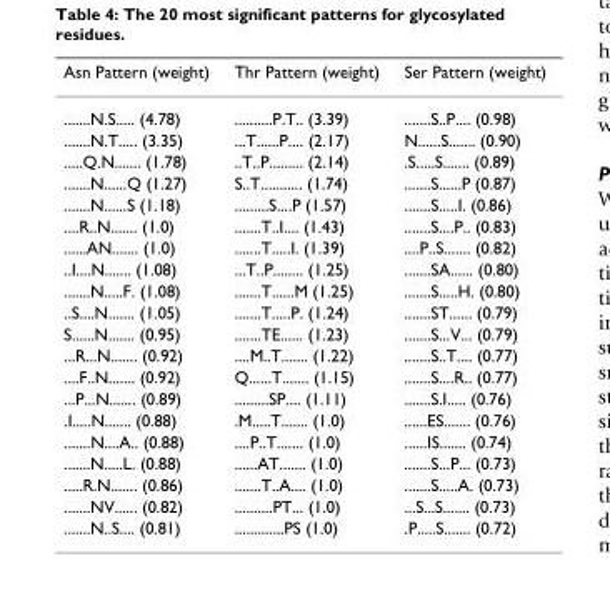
<table><thead><tr><td>Asn Pattern (weight)</td><td>Thr Pattern (weight)</td><td>Ser Pattern (weight)</td></tr></thead><tbody><tr><td>.......N.S..... (4.78)</td><td>..........P.T.. (3.39)</td><td>.......S..P.... (0.98)</td></tr><tr><td>.......N.T..... (3.35)</td><td>...T......P.... (2.17)</td><td>N......S....... (0.90)</td></tr><tr><td>.....Q.N....... (1.78)</td><td>..T..P......... (2.14)</td><td>.S.....S....... (0.89)</td></tr><tr><td>.......N......Q (1.27)</td><td>S..T........... (1.74)</td><td>.......S......P (0.87)</td></tr><tr><td>.......N......S (1.18)</td><td>.........S....P (1.57)</td><td>.......S.....I. (0.86)</td></tr><tr><td>....R..N....... (1.0)</td><td>.......T..I.... (1.43)</td><td>.......S....P.. (0.83)</td></tr><tr><td>......AN....... (1.0)</td><td>.......T.....I. (1.39)</td><td>....P..S....... (0.82)</td></tr><tr><td>..I....N....... (1.08)</td><td>...T..P........ (1.25)</td><td>.......SA...... (0.80)</td></tr><tr><td>.......N.....F. (1.08)</td><td>.......T......M (1.25)</td><td>.......S.....H. (0.80)</td></tr><tr><td>..S....N....... (1.05)</td><td>.......T.....P. (1.24)</td><td>.......ST...... (0.79)</td></tr><tr><td>S......N....... (0.95)</td><td>.......TE...... (1.23)</td><td>.......S...V... (0.79)</td></tr><tr><td>...R...N....... (0.92)</td><td>....M..T....... (1.22)</td><td>.......S..T.... (0.77)</td></tr><tr><td>....F..N....... (0.92)</td><td>Q......T....... (1.15)</td><td>.......S....R.. (0.77)</td></tr><tr><td>...P...N....... (0.89)</td><td>.........SP.... (1.11)</td><td>.......S.I..... (0.76)</td></tr><tr><td>.I.....N....... (0.88)</td><td>.M.....T....... (1.0)</td><td>......ES....... (0.76)</td></tr><tr><td>.......N....A.. (0.88)</td><td>....P..T....... (1.0)</td><td>......IS....... (0.74)</td></tr><tr><td>.......N.....L. (0.88)</td><td>......AT....... (1.0)</td><td>.......S...P... (0.73)</td></tr><tr><td>.....R.N....... (0.86)</td><td>.......T..A.... (1.0)</td><td>.......S.....A. (0.73)</td></tr><tr><td>.......NV...... (0.82)</td><td>..........PT... (1.0)</td><td>...S...S....... (0.73)</td></tr><tr><td>.......N..S.... (0.81)</td><td>.............PS (1.0)</td><td>.P.....S....... (0.72)</td></tr></tbody></table>